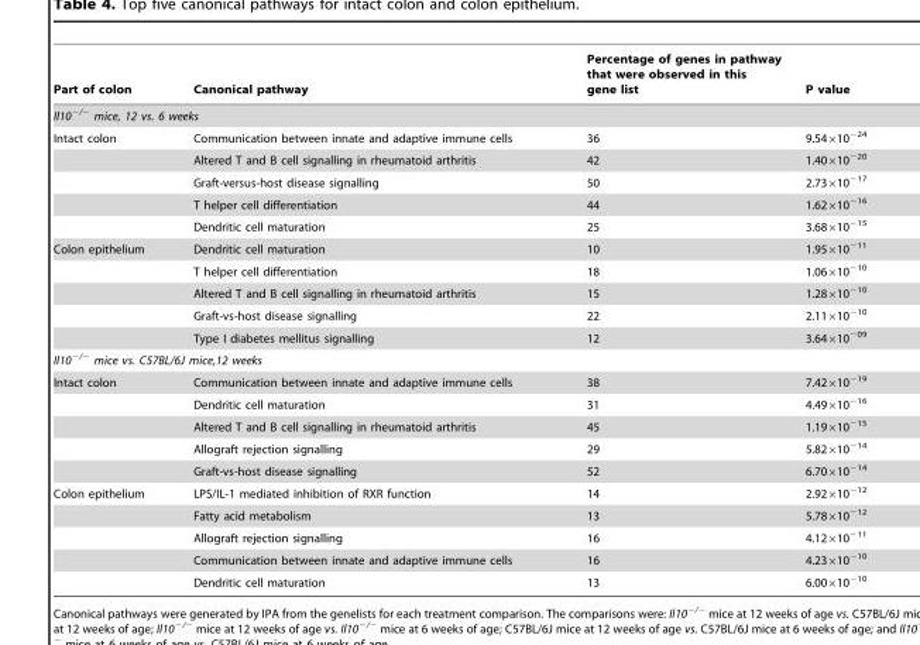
<table><thead><tr><td>Part of colon</td><td>Canonical pathway</td><td>Percentage of genes in pathway that were observed in this gene list</td><td>P value</td></tr></thead><tbody><tr><td colspan="4">Il10<sup>−/−</sup> mice, 12 vs. 6 weeks</td></tr><tr><td rowspan="5">Intact colon</td><td>Communication between innate and adaptive immune cells</td><td>36</td><td>9.54×10<sup>−24</sup></td></tr><tr><td>Altered T and B cell signalling in rheumatoid arthritis</td><td>42</td><td>1.40×10<sup>−20</sup></td></tr><tr><td>Graft-versus-host disease signalling</td><td>50</td><td>2.73×10<sup>−17</sup></td></tr><tr><td>T helper cell differentiation</td><td>44</td><td>1.62×10<sup>−16</sup></td></tr><tr><td>Dendritic cell maturation</td><td>25</td><td>3.68×10<sup>−15</sup></td></tr><tr><td rowspan="5">Colon epithelium</td><td>Dendritic cell maturation</td><td>10</td><td>1.95×10<sup>−11</sup></td></tr><tr><td>T helper cell differentiation</td><td>18</td><td>1.06×10<sup>−10</sup></td></tr><tr><td>Altered T and B cell signalling in rheumatoid arthritis</td><td>15</td><td>1.28×10<sup>−10</sup></td></tr><tr><td>Graft-vs-host disease signalling</td><td>22</td><td>2.11×10<sup>−10</sup></td></tr><tr><td>Type I diabetes mellitus signalling</td><td>12</td><td>3.64×10<sup>−09</sup></td></tr><tr><td colspan="4">Il10<sup>−/−</sup> mice vs. C57BL/6J mice,12 weeks</td></tr><tr><td rowspan="5">Intact colon</td><td>Communication between innate and adaptive immune cells</td><td>38</td><td>7.42×10<sup>−19</sup></td></tr><tr><td>Dendritic cell maturation</td><td>31</td><td>4.49×10<sup>−16</sup></td></tr><tr><td>Altered T and B cell signalling in rheumatoid arthritis</td><td>45</td><td>1.19×10<sup>−15</sup></td></tr><tr><td>Allograft rejection signalling</td><td>29</td><td>5.82×10<sup>−14</sup></td></tr><tr><td>Graft-vs-host disease signalling</td><td>52</td><td>6.70×10<sup>−14</sup></td></tr><tr><td rowspan="5">Colon epithelium</td><td>LPS/IL-1 mediated inhibition of RXR function</td><td>14</td><td>2.92×10<sup>−12</sup></td></tr><tr><td>Fatty acid metabolism</td><td>13</td><td>5.78×10<sup>−12</sup></td></tr><tr><td>Allograft rejection signalling</td><td>16</td><td>4.12×10<sup>−11</sup></td></tr><tr><td>Communication between innate and adaptive immune cells</td><td>16</td><td>4.23×10<sup>−10</sup></td></tr><tr><td>Dendritic cell maturation</td><td>13</td><td>6.00×10<sup>−10</sup></td></tr></tbody></table>